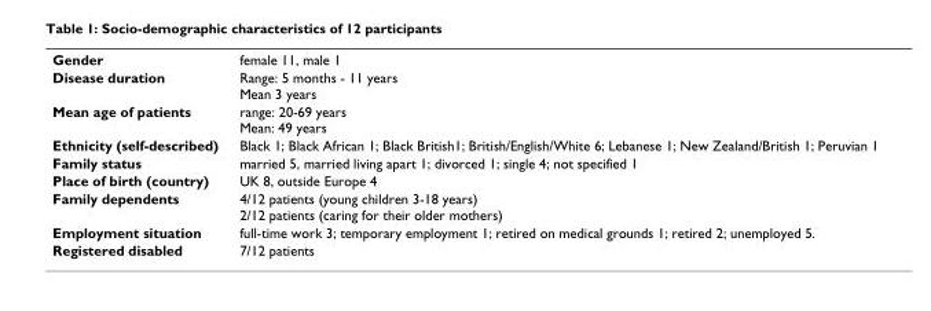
<table><tbody><tr><td>Gender</td><td>female 11, male 1</td></tr><tr><td>Disease duration</td><td>Range: 5 months - 11 years Mean 3 years</td></tr><tr><td>Mean age of patients</td><td>range: 20-69 years Mean: 49 years</td></tr><tr><td>Ethnicity (self-described)</td><td>Black 1; Black African 1; Black British1; British/English/White 6; Lebanese 1; New Zealand/British 1; Peruvian 1</td></tr><tr><td>Family status</td><td>married 5, married living apart 1; divorced 1; single 4; not specified 1</td></tr><tr><td>Place of birth (country)</td><td>UK 8, outside Europe 4</td></tr><tr><td>Family dependents</td><td>4/12 patients (young children 3-18 years) 2/12 patients (caring for their older mothers)</td></tr><tr><td>Employment situation</td><td>full-time work 3; temporary employment 1; retired on medical grounds 1; retired 2; unemployed 5.</td></tr><tr><td>Registered disabled</td><td>7/12 patients</td></tr></tbody></table>